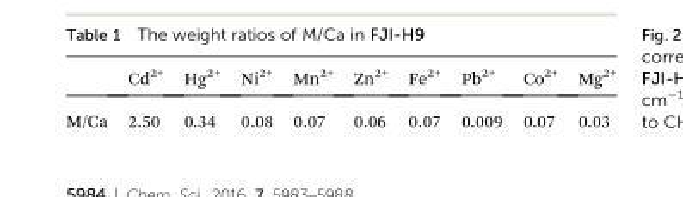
<table><thead><tr><td></td><td>Cd<sup>2+</sup></td><td>Hg<sup>2+</sup></td><td>Ni<sup>2+</sup></td><td>Mn<sup>2+</sup></td><td>Zn<sup>2+</sup></td><td>Fe<sup>2+</sup></td><td>Pb<sup>2+</sup></td><td>Co<sup>2+</sup></td><td>Mg<sup>2+</sup></td></tr></thead><tbody><tr><td>M/Ca</td><td>2.50</td><td>0.34</td><td>0.08</td><td>0.07</td><td>0.06</td><td>0.07</td><td>0.009</td><td>0.07</td><td>0.03</td></tr></tbody></table>